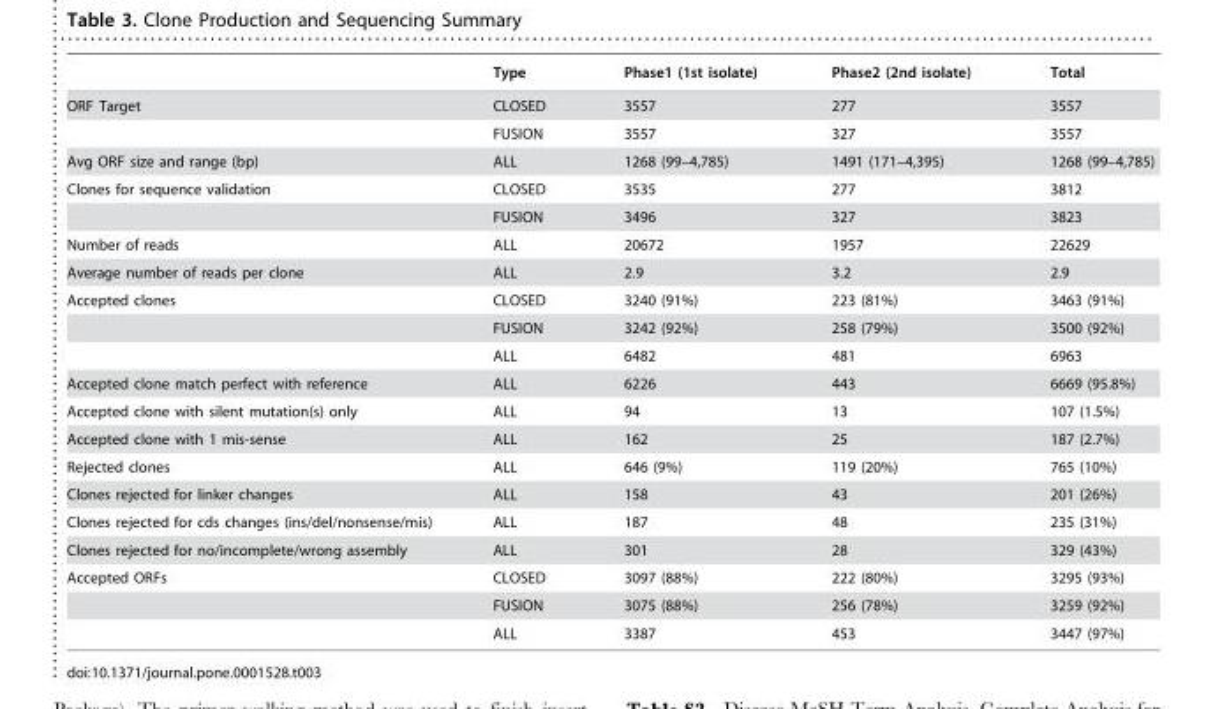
<table><thead><tr><td></td><td>Type</td><td>Phase1 (1st isolate)</td><td>Phase2 (2nd isolate)</td><td>Total</td></tr></thead><tbody><tr><td rowspan="2">ORF Target</td><td>CLOSED</td><td>3557</td><td>277</td><td>3557</td></tr><tr><td>FUSION</td><td>3557</td><td>327</td><td>3557</td></tr><tr><td>Avg ORF size and range (bp)</td><td>ALL</td><td>1268 (99–4,785)</td><td>1491 (171–4,395)</td><td>1268 (99–4,785)</td></tr><tr><td rowspan="2">Clones for sequence validation</td><td>CLOSED</td><td>3535</td><td>277</td><td>3812</td></tr><tr><td>FUSION</td><td>3496</td><td>327</td><td>3823</td></tr><tr><td>Number of reads</td><td>ALL</td><td>20672</td><td>1957</td><td>22629</td></tr><tr><td>Average number of reads per clone</td><td>ALL</td><td>2.9</td><td>3.2</td><td>2.9</td></tr><tr><td rowspan="3">Accepted clones</td><td>CLOSED</td><td>3240 (91%)</td><td>223 (81%)</td><td>3463 (91%)</td></tr><tr><td>FUSION</td><td>3242 (92%)</td><td>258 (79%)</td><td>3500 (92%)</td></tr><tr><td>ALL</td><td>6482</td><td>481</td><td>6963</td></tr><tr><td>Accepted clone match perfect with reference</td><td>ALL</td><td>6226</td><td>443</td><td>6669 (95.8%)</td></tr><tr><td>Accepted clone with silent mutation(s) only</td><td>ALL</td><td>94</td><td>13</td><td>107 (1.5%)</td></tr><tr><td>Accepted clone with 1 mis-sense</td><td>ALL</td><td>162</td><td>25</td><td>187 (2.7%)</td></tr><tr><td>Rejected clones</td><td>ALL</td><td>646 (9%)</td><td>119 (20%)</td><td>765 (10%)</td></tr><tr><td>Clones rejected for linker changes</td><td>ALL</td><td>158</td><td>43</td><td>201 (26%)</td></tr><tr><td>Clones rejected for cds changes (ins/del/nonsense/mis)</td><td>ALL</td><td>187</td><td>48</td><td>235 (31%)</td></tr><tr><td>Clones rejected for no/incomplete/wrong assembly</td><td>ALL</td><td>301</td><td>28</td><td>329 (43%)</td></tr><tr><td rowspan="3">Accepted ORFs</td><td>CLOSED</td><td>3097 (88%)</td><td>222 (80%)</td><td>3295 (93%)</td></tr><tr><td>FUSION</td><td>3075 (88%)</td><td>256 (78%)</td><td>3259 (92%)</td></tr><tr><td>ALL</td><td>3387</td><td>453</td><td>3447 (97%)</td></tr></tbody></table>